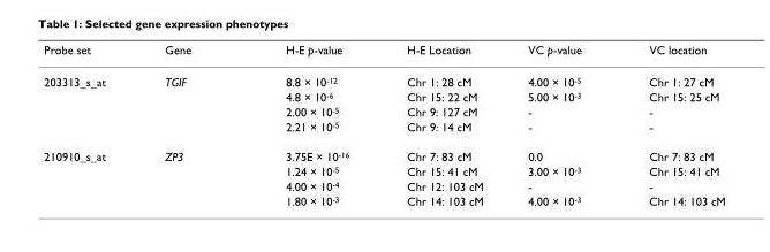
<table><thead><tr><td>Probe set</td><td>Gene</td><td>H-E p-value</td><td>H-E Location</td><td>VC p-value</td><td>VC location</td></tr></thead><tbody><tr><td rowspan="4">203313_s_at</td><td>TGIF</td><td>8.8 × 10<sup>-12</sup></td><td>Chr 1: 28 cM</td><td>4.00 × 10<sup>-5</sup></td><td>Chr 1: 27 cM</td></tr><tr><td></td><td>4.8 × 10<sup>-6</sup></td><td>Chr 15: 22 cM</td><td>5.00 × 10<sup>-3</sup></td><td>Chr 15: 25 cM</td></tr><tr><td></td><td>2.00 × 10<sup>-5</sup></td><td>Chr 9: 127 cM</td><td>-</td><td>-</td></tr><tr><td></td><td>2.21 × 10<sup>-5</sup></td><td>Chr 9: 14 cM</td><td>-</td><td>-</td></tr><tr><td rowspan="4">210910_s_at</td><td>ZP3</td><td>3.75E × 10<sup>-16</sup></td><td>Chr 7: 83 cM</td><td>0.0</td><td>Chr 7: 83 cM</td></tr><tr><td></td><td>1.24 × 10<sup>-5</sup></td><td>Chr 15: 41 cM</td><td>3.00 × 10<sup>-3</sup></td><td>Chr 15: 41 cM</td></tr><tr><td></td><td>4.00 × 10<sup>-4</sup></td><td>Chr 12: 103 cM</td><td>-</td><td>-</td></tr><tr><td></td><td>1.80 × 10<sup>-3</sup></td><td>Chr 14: 103 cM</td><td>4.00 × 10<sup>-3</sup></td><td>Chr 14: 103 cM</td></tr></tbody></table>